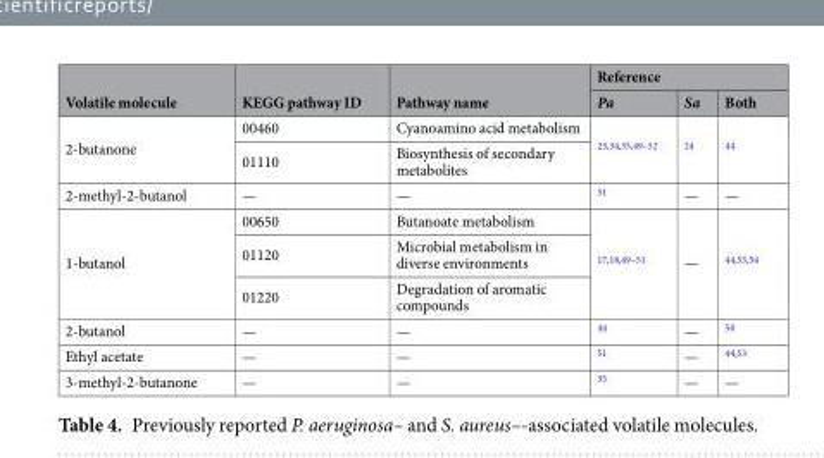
<table><thead><tr><td rowspan="2">Volatile molecule</td><td rowspan="2">KEGG pathway ID</td><td rowspan="2">Pathway name</td><td colspan="3">Reference</td></tr><tr><td>Pa</td><td>Sa</td><td>Both</td></tr></thead><tbody><tr><td rowspan="2">2-butanone</td><td>00460</td><td>Cyanoamino acid metabolism</td><td rowspan="2"><sup>23,34,35,49–52</sup></td><td rowspan="2"><sup>24</sup></td><td rowspan="2"><sup>44</sup></td></tr><tr><td>01110</td><td>Biosynthesis of secondary metabolites</td></tr><tr><td>2-methyl-2-butanol</td><td>—</td><td>—</td><td><sup>51</sup></td><td>—</td><td>—</td></tr><tr><td rowspan="3">1-butanol</td><td>00650</td><td>Butanoate metabolism</td><td rowspan="3"><sup>17,18,49–51</sup></td><td rowspan="3">—</td><td rowspan="3"><sup>44,53,54</sup></td></tr><tr><td>01120</td><td>Microbial metabolism in diverse environments</td></tr><tr><td>01220</td><td>Degradation of aromatic compounds</td></tr><tr><td>2-butanol</td><td>—</td><td>—</td><td><sup>44</sup></td><td>—</td><td><sup>50</sup></td></tr><tr><td>Ethyl acetate</td><td>—</td><td>—</td><td><sup>51</sup></td><td>—</td><td><sup>44,53</sup></td></tr><tr><td>3-methyl-2-butanone</td><td>—</td><td>—</td><td><sup>35</sup></td><td>—</td><td>—</td></tr></tbody></table>